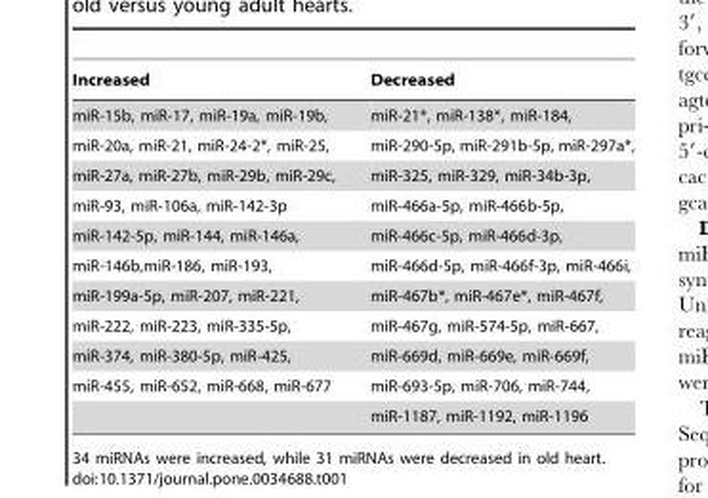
<table><thead><tr><td>Increased</td><td>Decreased</td></tr></thead><tbody><tr><td>miR-15b, miR-17, miR-19a, miR-19b,</td><td>miR-21*, miR-138*, miR-184,</td></tr><tr><td>miR-20a, miR-21, miR-24-2*, miR-25,</td><td>miR-290-5p, miR-291b-5p, miR-297a*,</td></tr><tr><td>miR-27a, miR-27b, miR-29b, miR-29c,</td><td>miR-325, miR-329, miR-34b-3p,</td></tr><tr><td>miR-93, miR-106a, miR-142-3p</td><td>miR-466a-5p, miR-466b-5p,</td></tr><tr><td>miR-142-5p, miR-144, miR-146a,</td><td>miR-466c-5p, miR-466d-3p,</td></tr><tr><td>miR-146b,miR-186, miR-193,</td><td>miR-466d-5p, miR-466f-3p, miR-466i,</td></tr><tr><td>miR-199a-5p, miR-207, miR-221,</td><td>miR-467b*, miR-467e*, miR-467f,</td></tr><tr><td>miR-222, miR-223, miR-335-5p,</td><td>miR-467g, miR-574-5p, miR-667,</td></tr><tr><td>miR-374, miR-380-5p, miR-425,</td><td>miR-669d, miR-669e, miR-669f,</td></tr><tr><td rowspan="2">miR-455, miR-652, miR-668, miR-677</td><td>miR-693-5p, miR-706, miR-744,</td></tr><tr><td>miR-1187, miR-1192, miR-1196</td></tr></tbody></table>